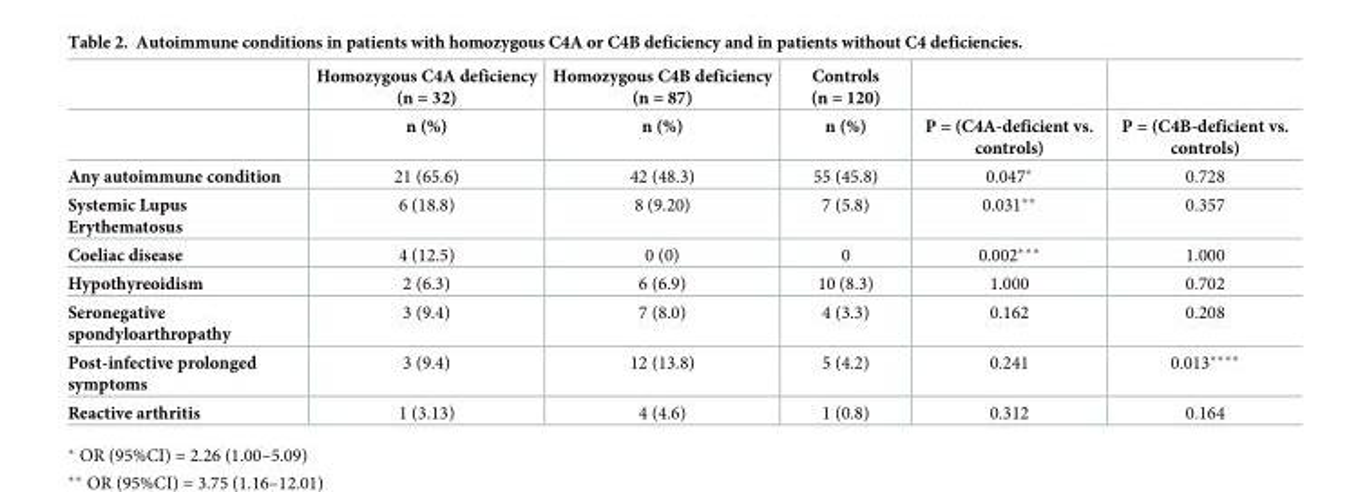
<table><thead><tr><td rowspan="2"></td><td rowspan="2">Homozygous C4A deficiency (n = 32) n (%)</td><td rowspan="2">Homozygous C4B deficiency (n = 87) n (%)</td><td rowspan="2">Controls (n = 120) n (%)</td><td rowspan="2">P = (C4A-deficient vs. controls)</td><td rowspan="2">P = (C4B-deficient vs. controls)</td></tr><tr></tr></thead><tbody><tr><td>Any autoimmune condition</td><td>21 (65.6)</td><td>42 (48.3)</td><td>55 (45.8)</td><td>0.047*</td><td>0.728</td></tr><tr><td>Systemic Lupus Erythematosus</td><td>6 (18.8)</td><td>8 (9.20)</td><td>7 (5.8)</td><td>0.031**</td><td>0.357</td></tr><tr><td>Coeliac disease</td><td>4 (12.5)</td><td>0 (0)</td><td>0</td><td>0.002***</td><td>1.000</td></tr><tr><td>Hypothyreoidism</td><td>2 (6.3)</td><td>6 (6.9)</td><td>10 (8.3)</td><td>1.000</td><td>0.702</td></tr><tr><td>Seronegative spondyloarthropathy</td><td>3 (9.4)</td><td>7 (8.0)</td><td>4 (3.3)</td><td>0.162</td><td>0.208</td></tr><tr><td>Post-infective prolonged symptoms</td><td>3 (9.4)</td><td>12 (13.8)</td><td>5 (4.2)</td><td>0.241</td><td>0.013****</td></tr><tr><td>Reactive arthritis</td><td>1 (3.13)</td><td>4 (4.6)</td><td>1 (0.8)</td><td>0.312</td><td>0.164</td></tr></tbody></table>